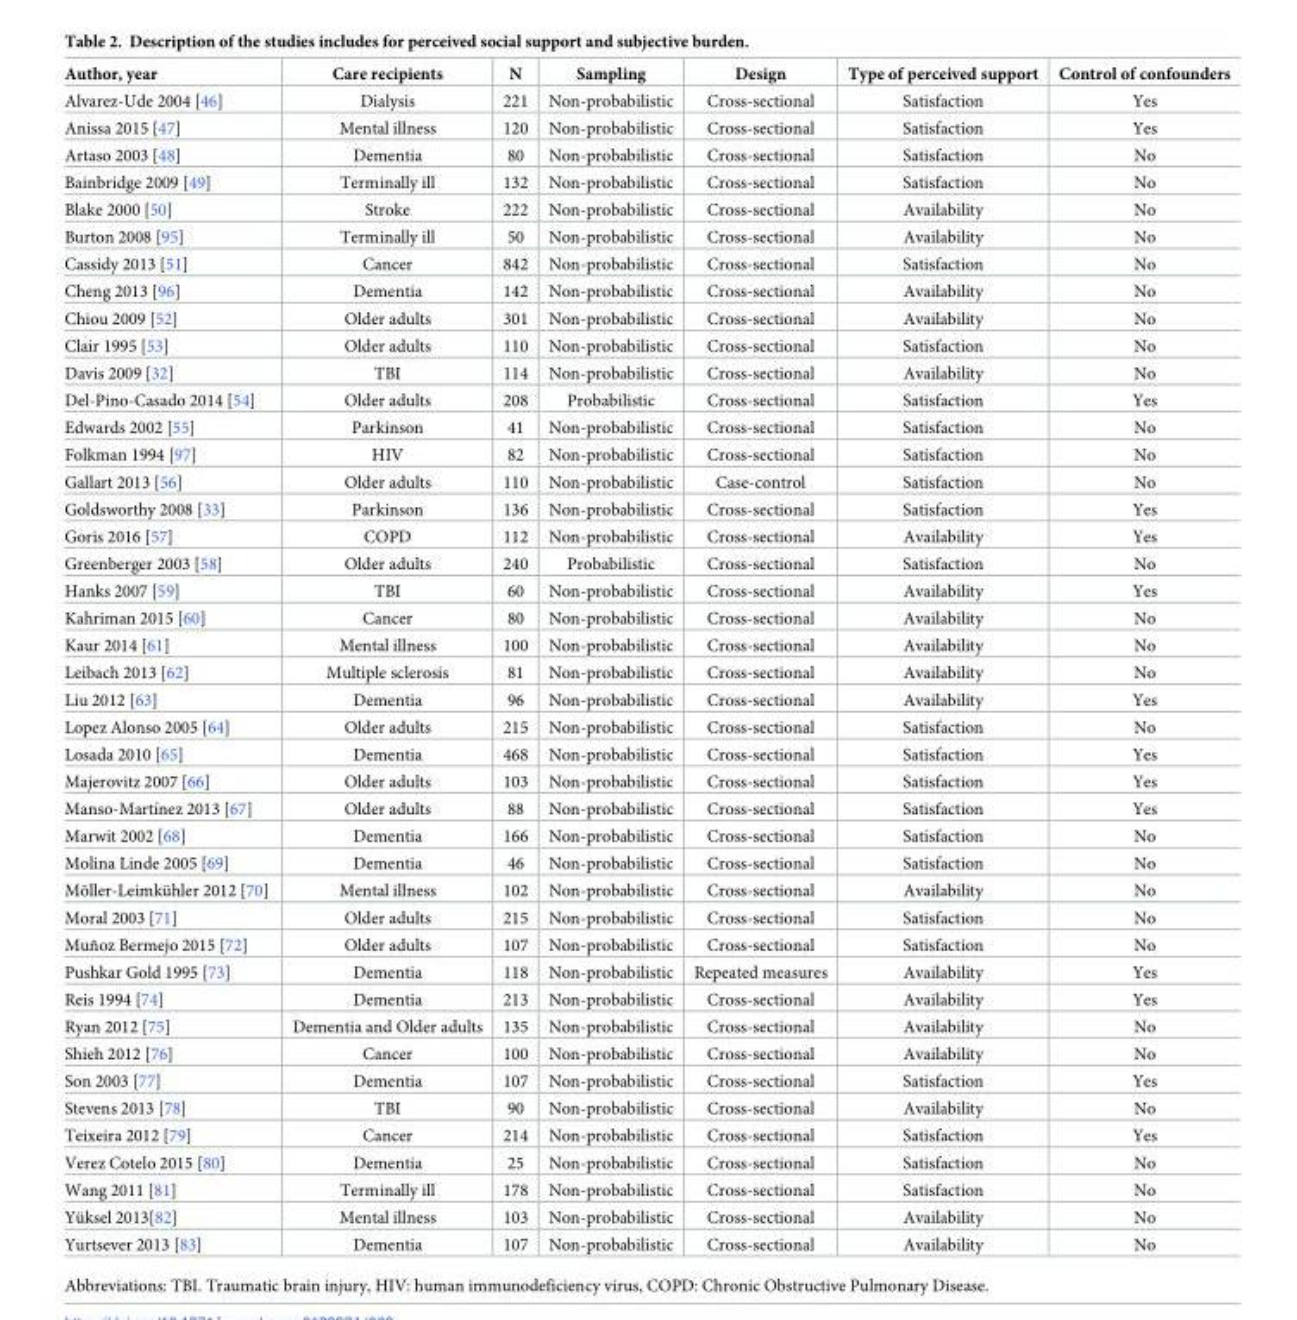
<table><thead><tr><td>Author, year</td><td>Care recipients</td><td>N</td><td>Sampling</td><td>Design</td><td>Type of perceived support</td><td>Control of confounders</td></tr></thead><tbody><tr><td>Alvarez-Ude 2004 [46]</td><td>Dialysis</td><td>221</td><td>Non-probabilistic</td><td>Cross-sectional</td><td>Satisfaction</td><td>Yes</td></tr><tr><td>Anissa 2015 [47]</td><td>Mental illness</td><td>120</td><td>Non-probabilistic</td><td>Cross-sectional</td><td>Satisfaction</td><td>Yes</td></tr><tr><td>Artaso 2003 [48]</td><td>Dementia</td><td>80</td><td>Non-probabilistic</td><td>Cross-sectional</td><td>Satisfaction</td><td>No</td></tr><tr><td>Bainbridge 2009 [49]</td><td>Terminally ill</td><td>132</td><td>Non-probabilistic</td><td>Cross-sectional</td><td>Satisfaction</td><td>No</td></tr><tr><td>Blake 2000 [50]</td><td>Stroke</td><td>222</td><td>Non-probabilistic</td><td>Cross-sectional</td><td>Availability</td><td>No</td></tr><tr><td>Burton 2008 [95]</td><td>Terminally ill</td><td>50</td><td>Non-probabilistic</td><td>Cross-sectional</td><td>Availability</td><td>No</td></tr><tr><td>Cassidy 2013 [51]</td><td>Cancer</td><td>842</td><td>Non-probabilistic</td><td>Cross-sectional</td><td>Satisfaction</td><td>No</td></tr><tr><td>Cheng 2013 [96]</td><td>Dementia</td><td>142</td><td>Non-probabilistic</td><td>Cross-sectional</td><td>Availability</td><td>No</td></tr><tr><td>Chiou 2009 [52]</td><td>Older adults</td><td>301</td><td>Non-probabilistic</td><td>Cross-sectional</td><td>Availability</td><td>No</td></tr><tr><td>Clair 1995 [53]</td><td>Older adults</td><td>110</td><td>Non-probabilistic</td><td>Cross-sectional</td><td>Satisfaction</td><td>No</td></tr><tr><td>Davis 2009 [32]</td><td>TBI</td><td>114</td><td>Non-probabilistic</td><td>Cross-sectional</td><td>Availability</td><td>No</td></tr><tr><td>Del-Pino-Casado 2014 [54]</td><td>Older adults</td><td>208</td><td>Probabilistic</td><td>Cross-sectional</td><td>Satisfaction</td><td>Yes</td></tr><tr><td>Edwards 2002 [55]</td><td>Parkinson</td><td>41</td><td>Non-probabilistic</td><td>Cross-sectional</td><td>Satisfaction</td><td>No</td></tr><tr><td>Folkman 1994 [97]</td><td>HIV</td><td>82</td><td>Non-probabilistic</td><td>Cross-sectional</td><td>Satisfaction</td><td>No</td></tr><tr><td>Gallart 2013 [56]</td><td>Older adults</td><td>110</td><td>Non-probabilistic</td><td>Case-control</td><td>Satisfaction</td><td>No</td></tr><tr><td>Goldsworthy 2008 [33]</td><td>Parkinson</td><td>136</td><td>Non-probabilistic</td><td>Cross-sectional</td><td>Satisfaction</td><td>Yes</td></tr><tr><td>Goris 2016 [57]</td><td>COPD</td><td>112</td><td>Non-probabilistic</td><td>Cross-sectional</td><td>Availability</td><td>Yes</td></tr><tr><td>Greenberger 2003 [58]</td><td>Older adults</td><td>240</td><td>Probabilistic</td><td>Cross-sectional</td><td>Satisfaction</td><td>No</td></tr><tr><td>Hanks 2007 [59]</td><td>TBI</td><td>60</td><td>Non-probabilistic</td><td>Cross-sectional</td><td>Availability</td><td>Yes</td></tr><tr><td>Kahriman 2015 [60]</td><td>Cancer</td><td>80</td><td>Non-probabilistic</td><td>Cross-sectional</td><td>Availability</td><td>No</td></tr><tr><td>Kaur 2014 [61]</td><td>Mental illness</td><td>100</td><td>Non-probabilistic</td><td>Cross-sectional</td><td>Availability</td><td>No</td></tr><tr><td>Leibach 2013 [62]</td><td>Multiple sclerosis</td><td>81</td><td>Non-probabilistic</td><td>Cross-sectional</td><td>Availability</td><td>No</td></tr><tr><td>Liu 2012 [63]</td><td>Dementia</td><td>96</td><td>Non-probabilistic</td><td>Cross-sectional</td><td>Availability</td><td>Yes</td></tr><tr><td>Lopez Alonso 2005 [64]</td><td>Older adults</td><td>215</td><td>Non-probabilistic</td><td>Cross-sectional</td><td>Satisfaction</td><td>No</td></tr><tr><td>Losada 2010 [65]</td><td>Dementia</td><td>468</td><td>Non-probabilistic</td><td>Cross-sectional</td><td>Satisfaction</td><td>Yes</td></tr><tr><td>Majerovitz 2007 [66]</td><td>Older adults</td><td>103</td><td>Non-probabilistic</td><td>Cross-sectional</td><td>Satisfaction</td><td>Yes</td></tr><tr><td>Manso-Martı´nez 2013 [67]</td><td>Older adults</td><td>88</td><td>Non-probabilistic</td><td>Cross-sectional</td><td>Satisfaction</td><td>Yes</td></tr><tr><td>Marwit 2002 [68]</td><td>Dementia</td><td>166</td><td>Non-probabilistic</td><td>Cross-sectional</td><td>Satisfaction</td><td>No</td></tr><tr><td>Molina Linde 2005 [69]</td><td>Dementia</td><td>46</td><td>Non-probabilistic</td><td>Cross-sectional</td><td>Satisfaction</td><td>No</td></tr><tr><td>Mo¨ller-Leimku¨hler 2012 [70]</td><td>Mental illness</td><td>102</td><td>Non-probabilistic</td><td>Cross-sectional</td><td>Availability</td><td>No</td></tr><tr><td>Moral 2003 [71]</td><td>Older adults</td><td>215</td><td>Non-probabilistic</td><td>Cross-sectional</td><td>Satisfaction</td><td>No</td></tr><tr><td>Muñoz Bermejo 2015 [72]</td><td>Older adults</td><td>107</td><td>Non-probabilistic</td><td>Cross-sectional</td><td>Satisfaction</td><td>No</td></tr><tr><td>Pushkar Gold 1995 [73]</td><td>Dementia</td><td>118</td><td>Non-probabilistic</td><td>Repeated measures</td><td>Availability</td><td>Yes</td></tr><tr><td>Reis 1994 [74]</td><td>Dementia</td><td>213</td><td>Non-probabilistic</td><td>Cross-sectional</td><td>Availability</td><td>Yes</td></tr><tr><td>Ryan 2012 [75]</td><td>Dementia and Older adults</td><td>135</td><td>Non-probabilistic</td><td>Cross-sectional</td><td>Availability</td><td>No</td></tr><tr><td>Shieh 2012 [76]</td><td>Cancer</td><td>100</td><td>Non-probabilistic</td><td>Cross-sectional</td><td>Availability</td><td>No</td></tr><tr><td>Son 2003 [77]</td><td>Dementia</td><td>107</td><td>Non-probabilistic</td><td>Cross-sectional</td><td>Satisfaction</td><td>Yes</td></tr><tr><td>Stevens 2013 [78]</td><td>TBI</td><td>90</td><td>Non-probabilistic</td><td>Cross-sectional</td><td>Availability</td><td>No</td></tr><tr><td>Teixeira 2012 [79]</td><td>Cancer</td><td>214</td><td>Non-probabilistic</td><td>Cross-sectional</td><td>Satisfaction</td><td>Yes</td></tr><tr><td>Verez Cotelo 2015 [80]</td><td>Dementia</td><td>25</td><td>Non-probabilistic</td><td>Cross-sectional</td><td>Satisfaction</td><td>No</td></tr><tr><td>Wang 2011 [81]</td><td>Terminally ill</td><td>178</td><td>Non-probabilistic</td><td>Cross-sectional</td><td>Satisfaction</td><td>No</td></tr><tr><td>Yu¨ksel 2013[82]</td><td>Mental illness</td><td>103</td><td>Non-probabilistic</td><td>Cross-sectional</td><td>Availability</td><td>No</td></tr><tr><td>Yurtsever 2013 [83]</td><td>Dementia</td><td>107</td><td>Non-probabilistic</td><td>Cross-sectional</td><td>Availability</td><td>No</td></tr></tbody></table>